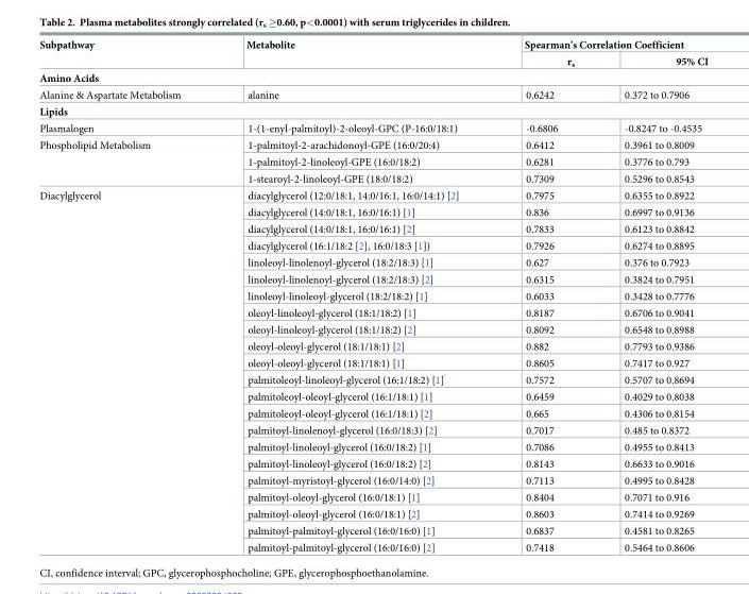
<table><thead><tr><td rowspan="2">Subpathway</td><td rowspan="2">Metabolite</td><td colspan="2">Spearman’s Correlation Coefficient</td></tr><tr><td>r<sub>s</sub></td><td>95% CI</td></tr></thead><tbody><tr><td colspan="4">Amino Acids</td></tr><tr><td>Alanine &amp; Aspartate Metabolism</td><td>alanine</td><td>0.6242</td><td>0.372 to 0.7906</td></tr><tr><td colspan="4">Lipids</td></tr><tr><td>Plasmalogen</td><td>1-(1-enyl-palmitoyl)-2-oleoyl-GPC (P-16:0/18:1)</td><td>-0.6806</td><td>-0.8247 to -0.4535</td></tr><tr><td rowspan="3">Phospholipid Metabolism</td><td>1-palmitoyl-2-arachidonoyl-GPE (16:0/20:4)</td><td>0.6412</td><td>0.3961 to 0.8009</td></tr><tr><td>1-palmitoyl-2-linoleoyl-GPE (16:0/18:2)</td><td>0.6281</td><td>0.3776 to 0.793</td></tr><tr><td>1-stearoyl-2-linoleoyl-GPE (18:0/18:2)</td><td>0.7309</td><td>0.5296 to 0.8543</td></tr><tr><td rowspan="22">Diacylglycerol</td><td>diacylglycerol (12:0/18:1, 14:0/16:1, 16:0/14:1) [2]</td><td>0.7975</td><td>0.6355 to 0.8922</td></tr><tr><td>diacylglycerol (14:0/18:1, 16:0/16:1) [1]</td><td>0.836</td><td>0.6997 to 0.9136</td></tr><tr><td>diacylglycerol (14:0/18:1, 16:0/16:1) [2]</td><td>0.7833</td><td>0.6123 to 0.8842</td></tr><tr><td>diacylglycerol (16:1/18:2 [2], 16:0/18:3 [1])</td><td>0.7926</td><td>0.6274 to 0.8895</td></tr><tr><td>linoleoyl-linolenoyl-glycerol (18:2/18:3) [1]</td><td>0.627</td><td>0.376 to 0.7923</td></tr><tr><td>linoleoyl-linolenoyl-glycerol (18:2/18:3) [2]</td><td>0.6315</td><td>0.3824 to 0.7951</td></tr><tr><td>linoleoyl-linoleoyl-glycerol (18:2/18:2) [1]</td><td>0.6033</td><td>0.3428 to 0.7776</td></tr><tr><td>oleoyl-linoleoyl-glycerol (18:1/18:2) [1]</td><td>0.8187</td><td>0.6706 to 0.9041</td></tr><tr><td>oleoyl-linoleoyl-glycerol (18:1/18:2) [2]</td><td>0.8092</td><td>0.6548 to 0.8988</td></tr><tr><td>oleoyl-oleoyl-glycerol (18:1/18:1) [2]</td><td>0.882</td><td>0.7793 to 0.9386</td></tr><tr><td>oleoyl-oleoyl-glycerol (18:1/18:1) [1]</td><td>0.8605</td><td>0.7417 to 0.927</td></tr><tr><td>palmitoleoyl-linoleoyl-glycerol (16:1/18:2) [1]</td><td>0.7572</td><td>0.5707 to 0.8694</td></tr><tr><td>palmitoleoyl-oleoyl-glycerol (16:1/18:1) [1]</td><td>0.6459</td><td>0.4029 to 0.8038</td></tr><tr><td>palmitoleoyl-oleoyl-glycerol (16:1/18:1) [2]</td><td>0.665</td><td>0.4306 to 0.8154</td></tr><tr><td>palmitoyl-linolenoyl-glycerol (16:0/18:3) [2]</td><td>0.7017</td><td>0.485 to 0.8372</td></tr><tr><td>palmitoyl-linoleoyl-glycerol (16:0/18:2) [1]</td><td>0.7086</td><td>0.4955 to 0.8413</td></tr><tr><td>palmitoyl-linoleoyl-glycerol (16:0/18:2) [2]</td><td>0.8143</td><td>0.6633 to 0.9016</td></tr><tr><td>palmitoyl-myristoyl-glycerol (16:0/14:0) [2]</td><td>0.7113</td><td>0.4995 to 0.8428</td></tr><tr><td>palmitoyl-oleoyl-glycerol (16:0/18:1) [1]</td><td>0.8404</td><td>0.7071 to 0.916</td></tr><tr><td>palmitoyl-oleoyl-glycerol (16:0/18:1) [2]</td><td>0.8603</td><td>0.7414 to 0.9269</td></tr><tr><td>palmitoyl-palmitoyl-glycerol (16:0/16:0) [1]</td><td>0.6837</td><td>0.4581 to 0.8265</td></tr><tr><td>palmitoyl-palmitoyl-glycerol (16:0/16:0) [2]</td><td>0.7418</td><td>0.5464 to 0.8606</td></tr></tbody></table>